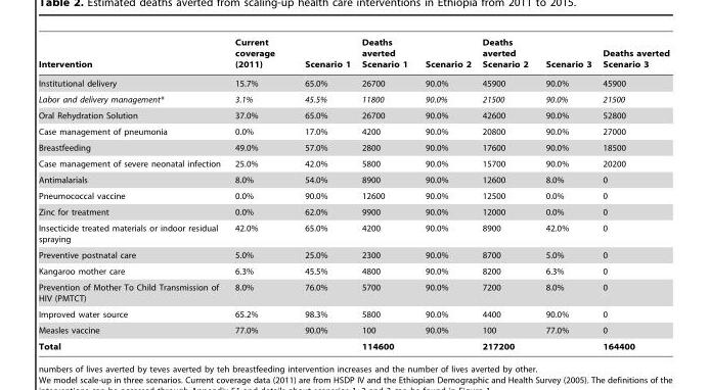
<table><thead><tr><td>Intervention</td><td>Current coverage (2011)</td><td>Scenario 1</td><td>Deaths averted Scenario 1</td><td>Scenario 2</td><td>Deaths averted Scenario 2</td><td>Scenario 3</td><td>Deaths averted Scenario 3</td></tr></thead><tbody><tr><td>Institutional delivery</td><td>15.7%</td><td>65.0%</td><td>26700</td><td>90.0%</td><td>45900</td><td>90.0%</td><td>45900</td></tr><tr><td>Labor and delivery management*</td><td>3.1%</td><td>45.5%</td><td>11800</td><td>90.0%</td><td>21500</td><td>90.0%</td><td>21500</td></tr><tr><td>Oral Rehydration Solution</td><td>37.0%</td><td>65.0%</td><td>26700</td><td>90.0%</td><td>42600</td><td>90.0%</td><td>52800</td></tr><tr><td>Case management of pneumonia</td><td>0.0%</td><td>17.0%</td><td>4200</td><td>90.0%</td><td>20800</td><td>90.0%</td><td>27000</td></tr><tr><td>Breastfeeding</td><td>49.0%</td><td>57.0%</td><td>2800</td><td>90.0%</td><td>17600</td><td>90.0%</td><td>18500</td></tr><tr><td>Case management of severe neonatal infection</td><td>25.0%</td><td>42.0%</td><td>5800</td><td>90.0%</td><td>15700</td><td>90.0%</td><td>20200</td></tr><tr><td>Antimalarials</td><td>8.0%</td><td>54.0%</td><td>8900</td><td>90.0%</td><td>12600</td><td>8.0%</td><td>0</td></tr><tr><td>Pneumococcal vaccine</td><td>0.0%</td><td>90.0%</td><td>12600</td><td>90.0%</td><td>12500</td><td>0.0%</td><td>0</td></tr><tr><td>Zinc for treatment</td><td>0.0%</td><td>62.0%</td><td>9900</td><td>90.0%</td><td>12000</td><td>0.0%</td><td>0</td></tr><tr><td>Insecticide treated materials or indoor residual spraying</td><td>42.0%</td><td>65.0%</td><td>4200</td><td>90.0%</td><td>8900</td><td>42.0%</td><td>0</td></tr><tr><td>Preventive postnatal care</td><td>5.0%</td><td>25.0%</td><td>2300</td><td>90.0%</td><td>8700</td><td>5.0%</td><td>0</td></tr><tr><td>Kangaroo mother care</td><td>6.3%</td><td>45.5%</td><td>4800</td><td>90.0%</td><td>8200</td><td>6.3%</td><td>0</td></tr><tr><td>Prevention of Mother To Child Transmission of HIV (PMTCT)</td><td>8.0%</td><td>76.0%</td><td>5700</td><td>90.0%</td><td>7200</td><td>8.0%</td><td>0</td></tr><tr><td>Improved water source</td><td>65.2%</td><td>98.3%</td><td>5800</td><td>90.0%</td><td>4400</td><td>90.0%</td><td>0</td></tr><tr><td>Measles vaccine</td><td>77.0%</td><td>90.0%</td><td>100</td><td>90.0%</td><td>100</td><td>77.0%</td><td>0</td></tr><tr><td>Total</td><td></td><td></td><td>114600</td><td></td><td>217200</td><td></td><td>164400</td></tr></tbody></table>